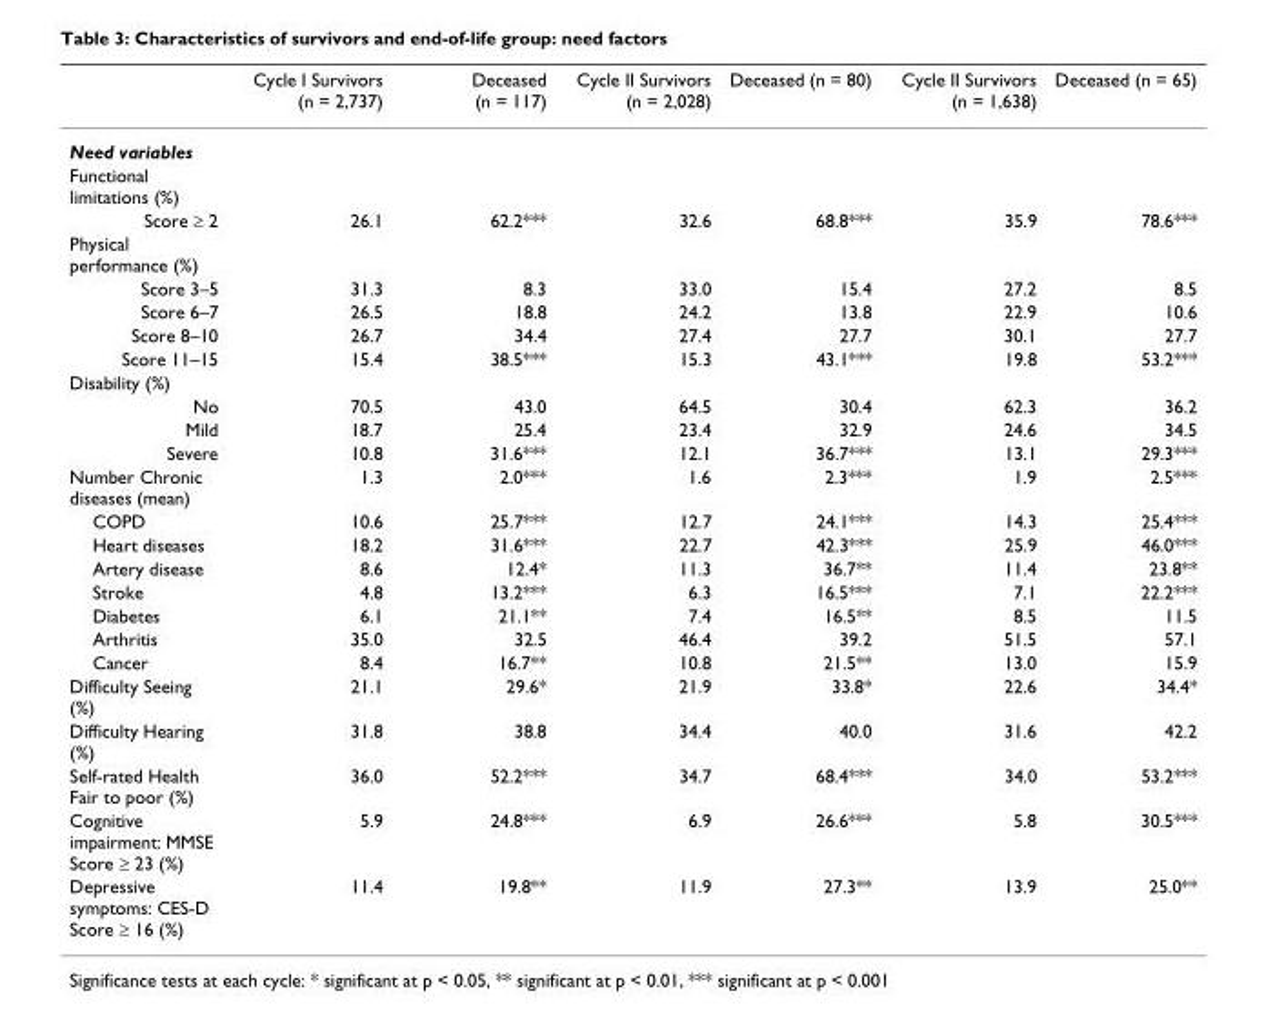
<table><thead><tr><td></td><td>Cycle I Survivors (n = 2,737)</td><td>Deceased (n = 117)</td><td>Cycle II Survivors (n = 2,028)</td><td>Deceased (n = 80)</td><td>Cycle II Survivors (n = 1,638)</td><td>Deceased (n = 65)</td></tr></thead><tbody><tr><td colspan="7">Need variables</td></tr><tr><td colspan="7">Functional limitations (%)</td></tr><tr><td>Score ≥ 2</td><td>26.1</td><td>62.2***</td><td>32.6</td><td>68.8***</td><td>35.9</td><td>78.6***</td></tr><tr><td colspan="7">Physical performance (%)</td></tr><tr><td>Score 3–5</td><td>31.3</td><td>8.3</td><td>33.0</td><td>15.4</td><td>27.2</td><td>8.5</td></tr><tr><td>Score 6–7</td><td>26.5</td><td>18.8</td><td>24.2</td><td>13.8</td><td>22.9</td><td>10.6</td></tr><tr><td>Score 8–10</td><td>26.7</td><td>34.4</td><td>27.4</td><td>27.7</td><td>30.1</td><td>27.7</td></tr><tr><td>Score 11–15</td><td>15.4</td><td>38.5***</td><td>15.3</td><td>43.1***</td><td>19.8</td><td>53.2***</td></tr><tr><td colspan="7">Disability (%)</td></tr><tr><td>No</td><td>70.5</td><td>43.0</td><td>64.5</td><td>30.4</td><td>62.3</td><td>36.2</td></tr><tr><td>Mild</td><td>18.7</td><td>25.4</td><td>23.4</td><td>32.9</td><td>24.6</td><td>34.5</td></tr><tr><td>Severe</td><td>10.8</td><td>31.6***</td><td>12.1</td><td>36.7***</td><td>13.1</td><td>29.3***</td></tr><tr><td>Number Chronic diseases (mean)</td><td>1.3</td><td>2.0***</td><td>1.6</td><td>2.3***</td><td>1.9</td><td>2.5***</td></tr><tr><td>COPD</td><td>10.6</td><td>25.7***</td><td>12.7</td><td>24.1***</td><td>14.3</td><td>25.4***</td></tr><tr><td>Heart diseases</td><td>18.2</td><td>31.6***</td><td>22.7</td><td>42.3***</td><td>25.9</td><td>46.0***</td></tr><tr><td>Artery disease</td><td>8.6</td><td>12.4*</td><td>11.3</td><td>36.7**</td><td>11.4</td><td>23.8**</td></tr><tr><td>Stroke</td><td>4.8</td><td>13.2***</td><td>6.3</td><td>16.5***</td><td>7.1</td><td>22.2***</td></tr><tr><td>Diabetes</td><td>6.1</td><td>21.1**</td><td>7.4</td><td>16.5**</td><td>8.5</td><td>11.5</td></tr><tr><td>Arthritis</td><td>35.0</td><td>32.5</td><td>46.4</td><td>39.2</td><td>51.5</td><td>57.1</td></tr><tr><td>Cancer</td><td>8.4</td><td>16.7**</td><td>10.8</td><td>21.5**</td><td>13.0</td><td>15.9</td></tr><tr><td>Difficulty Seeing (%)</td><td>21.1</td><td>29.6*</td><td>21.9</td><td>33.8*</td><td>22.6</td><td>34.4*</td></tr><tr><td>Difficulty Hearing (%)</td><td>31.8</td><td>38.8</td><td>34.4</td><td>40.0</td><td>31.6</td><td>42.2</td></tr><tr><td>Self-rated Health Fair to poor (%)</td><td>36.0</td><td>52.2***</td><td>34.7</td><td>68.4***</td><td>34.0</td><td>53.2***</td></tr><tr><td>Cognitive impairment: MMSE Score ≥ 23 (%)</td><td>5.9</td><td>24.8***</td><td>6.9</td><td>26.6***</td><td>5.8</td><td>30.5***</td></tr><tr><td>Depressive symptoms: CES-D Score ≥ 16 (%)</td><td>11.4</td><td>19.8**</td><td>11.9</td><td>27.3**</td><td>13.9</td><td>25.0**</td></tr></tbody></table>